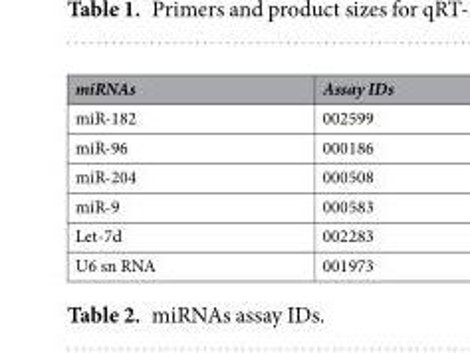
<table><thead><tr><td>miRNAs</td><td>Assay IDs</td></tr></thead><tbody><tr><td>miR-182</td><td>002599</td></tr><tr><td>miR-96</td><td>000186</td></tr><tr><td>miR-204</td><td>000508</td></tr><tr><td>miR-9</td><td>000583</td></tr><tr><td>Let-7d</td><td>002283</td></tr><tr><td>U6 sn RNA</td><td>001973</td></tr></tbody></table>